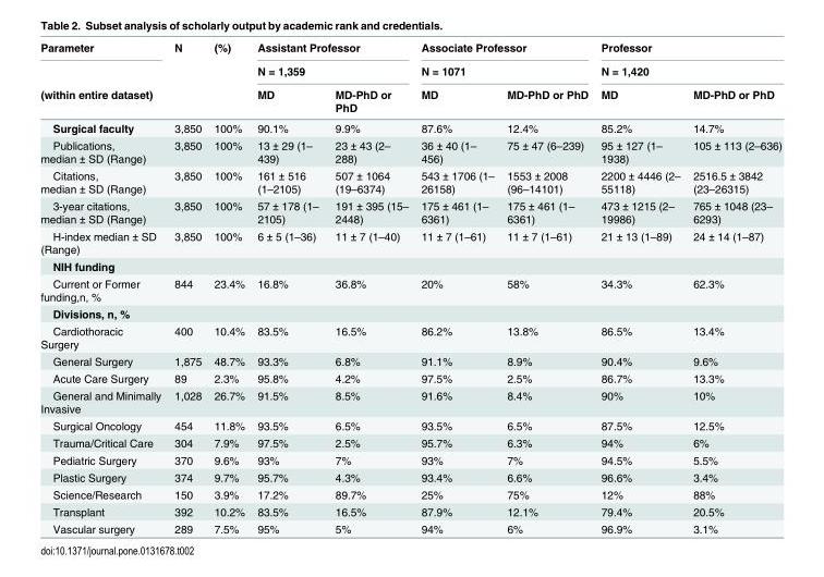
<table><thead><tr><td rowspan="3">Parameter (within entire dataset)</td><td rowspan="3">N</td><td rowspan="3">(%)</td><td rowspan="2" colspan="2">Assistant Professor N = 1,359</td><td rowspan="2" colspan="2">Associate Professor N = 1071</td><td rowspan="2" colspan="2">Professor N = 1,420</td></tr><tr></tr><tr><td>MD</td><td>MD-PhD or PhD</td><td>MD</td><td>MD-PhD or PhD</td><td>MD</td><td>MD-PhD or PhD</td></tr></thead><tbody><tr><td>Surgical faculty</td><td>3,850</td><td>100%</td><td>90.1%</td><td>9.9%</td><td>87.6%</td><td>12.4%</td><td>85.2%</td><td>14.7%</td></tr><tr><td>Publications, median ± SD (Range)</td><td>3,850</td><td>100%</td><td>13 ± 29 (1– 439)</td><td>23 ± 43 (2– 288)</td><td>36 ± 40 (1– 456)</td><td>75 ± 47 (6–239)</td><td>95 ± 127 (1– 1938)</td><td>105 ± 113 (2–636)</td></tr><tr><td>Citations, median ± SD (Range)</td><td>3,850</td><td>100%</td><td>161 ± 516 (1–2105)</td><td>507 ± 1064 (19–6374)</td><td>543 ± 1706 (1– 26158)</td><td>1553 ± 2008 (96–14101)</td><td>2200 ± 4446 (2– 55118)</td><td>2516.5 ± 3842 (23–26315)</td></tr><tr><td>3-year citations, median ± SD (Range)</td><td>3,850</td><td>100%</td><td>57 ± 178 (1– 2105)</td><td>191 ± 395 (15– 2448)</td><td>175 ± 461 (1– 6361)</td><td>175 ± 461 (1– 6361)</td><td>473 ± 1215 (2– 19986)</td><td>765 ± 1048 (23– 6293)</td></tr><tr><td>H-index median ± SD (Range)</td><td>3,850</td><td>100%</td><td>6 ± 5 (1–36)</td><td>11 ± 7 (1–40)</td><td>11 ± 7 (1–61)</td><td>11 ± 7 (1–61)</td><td>21 ± 13 (1–89)</td><td>24 ± 14 (1–87)</td></tr><tr><td colspan="9">NIH funding</td></tr><tr><td>Current or Former funding,n, %</td><td>844</td><td>23.4%</td><td>16.8%</td><td>36.8%</td><td>20%</td><td>58%</td><td>34.3%</td><td>62.3%</td></tr><tr><td colspan="9">Divisions, n, %</td></tr><tr><td>Cardiothoracic Surgery</td><td>400</td><td>10.4%</td><td>83.5%</td><td>16.5%</td><td>86.2%</td><td>13.8%</td><td>86.5%</td><td>13.4%</td></tr><tr><td>General Surgery</td><td>1,875</td><td>48.7%</td><td>93.3%</td><td>6.8%</td><td>91.1%</td><td>8.9%</td><td>90.4%</td><td>9.6%</td></tr><tr><td>Acute Care Surgery</td><td>89</td><td>2.3%</td><td>95.8%</td><td>4.2%</td><td>97.5%</td><td>2.5%</td><td>86.7%</td><td>13.3%</td></tr><tr><td>General and Minimally Invasive</td><td>1,028</td><td>26.7%</td><td>91.5%</td><td>8.5%</td><td>91.6%</td><td>8.4%</td><td>90%</td><td>10%</td></tr><tr><td>Surgical Oncology</td><td>454</td><td>11.8%</td><td>93.5%</td><td>6.5%</td><td>93.5%</td><td>6.5%</td><td>87.5%</td><td>12.5%</td></tr><tr><td>Trauma/Critical Care</td><td>304</td><td>7.9%</td><td>97.5%</td><td>2.5%</td><td>95.7%</td><td>6.3%</td><td>94%</td><td>6%</td></tr><tr><td>Pediatric Surgery</td><td>370</td><td>9.6%</td><td>93%</td><td>7%</td><td>93%</td><td>7%</td><td>94.5%</td><td>5.5%</td></tr><tr><td>Plastic Surgery</td><td>374</td><td>9.7%</td><td>95.7%</td><td>4.3%</td><td>93.4%</td><td>6.6%</td><td>96.6%</td><td>3.4%</td></tr><tr><td>Science/Research</td><td>150</td><td>3.9%</td><td>17.2%</td><td>89.7%</td><td>25%</td><td>75%</td><td>12%</td><td>88%</td></tr><tr><td>Transplant</td><td>392</td><td>10.2%</td><td>83.5%</td><td>16.5%</td><td>87.9%</td><td>12.1%</td><td>79.4%</td><td>20.5%</td></tr><tr><td>Vascular surgery</td><td>289</td><td>7.5%</td><td>95%</td><td>5%</td><td>94%</td><td>6%</td><td>96.9%</td><td>3.1%</td></tr></tbody></table>